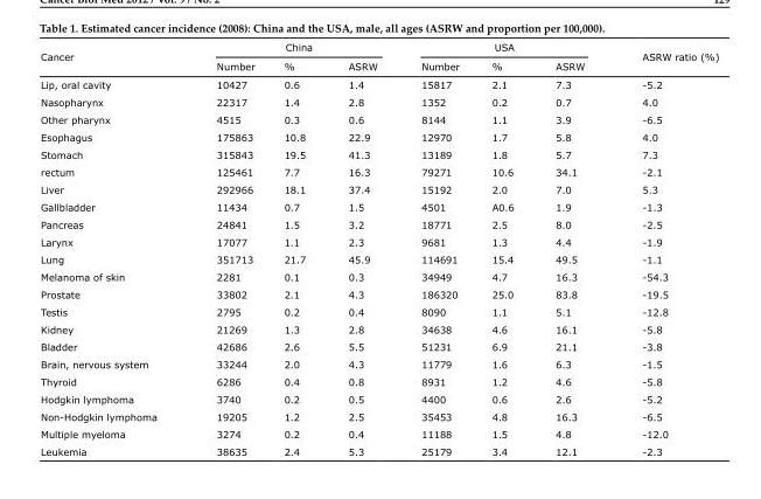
<table><thead><tr><td rowspan="2">Cancer</td><td colspan="3">China</td><td colspan="3">USA</td><td rowspan="2">ASRW ratio (%)</td></tr><tr><td>Number</td><td>%</td><td>ASRW</td><td>Number</td><td>%</td><td>ASRW</td></tr></thead><tbody><tr><td>Lip, oral cavity</td><td>10427</td><td>0.6</td><td>1.4</td><td>15817</td><td>2.1</td><td>7.3</td><td>-5.2</td></tr><tr><td>Nasopharynx</td><td>22317</td><td>1.4</td><td>2.8</td><td>1352</td><td>0.2</td><td>0.7</td><td>4.0</td></tr><tr><td>Other pharynx</td><td>4515</td><td>0.3</td><td>0.6</td><td>8144</td><td>1.1</td><td>3.9</td><td>-6.5</td></tr><tr><td>Esophagus</td><td>175863</td><td>10.8</td><td>22.9</td><td>12970</td><td>1.7</td><td>5.8</td><td>4.0</td></tr><tr><td>Stomach</td><td>315843</td><td>19.5</td><td>41.3</td><td>13189</td><td>1.8</td><td>5.7</td><td>7.3</td></tr><tr><td>rectum</td><td>125461</td><td>7.7</td><td>16.3</td><td>79271</td><td>10.6</td><td>34.1</td><td>-2.1</td></tr><tr><td>Liver</td><td>292966</td><td>18.1</td><td>37.4</td><td>15192</td><td>2.0</td><td>7.0</td><td>5.3</td></tr><tr><td>Gallbladder</td><td>11434</td><td>0.7</td><td>1.5</td><td>4501</td><td>A0.6</td><td>1.9</td><td>-1.3</td></tr><tr><td>Pancreas</td><td>24841</td><td>1.5</td><td>3.2</td><td>18771</td><td>2.5</td><td>8.0</td><td>-2.5</td></tr><tr><td>Larynx</td><td>17077</td><td>1.1</td><td>2.3</td><td>9681</td><td>1.3</td><td>4.4</td><td>-1.9</td></tr><tr><td>Lung</td><td>351713</td><td>21.7</td><td>45.9</td><td>114691</td><td>15.4</td><td>49.5</td><td>-1.1</td></tr><tr><td>Melanoma of skin</td><td>2281</td><td>0.1</td><td>0.3</td><td>34949</td><td>4.7</td><td>16.3</td><td>-54.3</td></tr><tr><td>Prostate</td><td>33802</td><td>2.1</td><td>4.3</td><td>186320</td><td>25.0</td><td>83.8</td><td>-19.5</td></tr><tr><td>Testis</td><td>2795</td><td>0.2</td><td>0.4</td><td>8090</td><td>1.1</td><td>5.1</td><td>-12.8</td></tr><tr><td>Kidney</td><td>21269</td><td>1.3</td><td>2.8</td><td>34638</td><td>4.6</td><td>16.1</td><td>-5.8</td></tr><tr><td>Bladder</td><td>42686</td><td>2.6</td><td>5.5</td><td>51231</td><td>6.9</td><td>21.1</td><td>-3.8</td></tr><tr><td>Brain, nervous system</td><td>33244</td><td>2.0</td><td>4.3</td><td>11779</td><td>1.6</td><td>6.3</td><td>-1.5</td></tr><tr><td>Thyroid</td><td>6286</td><td>0.4</td><td>0.8</td><td>8931</td><td>1.2</td><td>4.6</td><td>-5.8</td></tr><tr><td>Hodgkin lymphoma</td><td>3740</td><td>0.2</td><td>0.5</td><td>4400</td><td>0.6</td><td>2.6</td><td>-5.2</td></tr><tr><td>Non-Hodgkin lymphoma</td><td>19205</td><td>1.2</td><td>2.5</td><td>35453</td><td>4.8</td><td>16.3</td><td>-6.5</td></tr><tr><td>Multiple myeloma</td><td>3274</td><td>0.2</td><td>0.4</td><td>11188</td><td>1.5</td><td>4.8</td><td>-12.0</td></tr><tr><td>Leukemia</td><td>38635</td><td>2.4</td><td>5.3</td><td>25179</td><td>3.4</td><td>12.1</td><td>-2.3</td></tr></tbody></table>